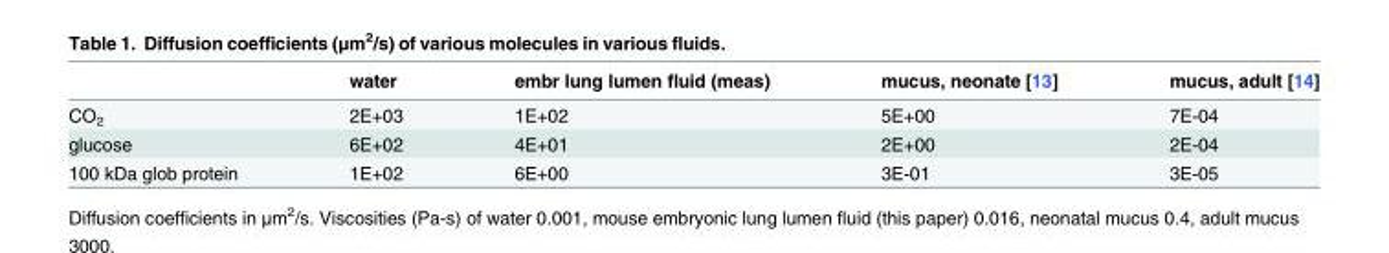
<table><thead><tr><td></td><td>water</td><td>embr lung lumen fluid (meas)</td><td>mucus, neonate [13]</td><td>mucus, adult [14]</td></tr></thead><tbody><tr><td>CO<sub>2</sub></td><td>2E+03</td><td>1E+02</td><td>5E+00</td><td>7E-04</td></tr><tr><td>glucose</td><td>6E+02</td><td>4E+01</td><td>2E+00</td><td>2E-04</td></tr><tr><td>100 kDa glob protein</td><td>1E+02</td><td>6E+00</td><td>3E-01</td><td>3E-05</td></tr></tbody></table>